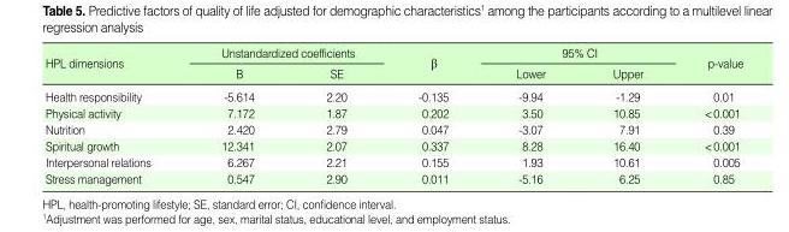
<table><thead><tr><td rowspan="2">HPL dimensions</td><td colspan="2">Unstandardized coefficients</td><td rowspan="2">β</td><td colspan="2">95% CI</td><td rowspan="2">p-value</td></tr><tr><td>B</td><td>SE</td><td>Lower</td><td>Upper</td></tr></thead><tbody><tr><td>Health responsibility</td><td>-5.614</td><td>2.20</td><td>-0.135</td><td>-9.94</td><td>-1.29</td><td>0.01</td></tr><tr><td>Physical activity</td><td>7.172</td><td>1.87</td><td>0.202</td><td>3.50</td><td>10.85</td><td>&lt;0.001</td></tr><tr><td>Nutrition</td><td>2.420</td><td>2.79</td><td>0.047</td><td>-3.07</td><td>7.91</td><td>0.39</td></tr><tr><td>Spiritual growth</td><td>12.341</td><td>2.07</td><td>0.337</td><td>8.28</td><td>16.40</td><td>&lt;0.001</td></tr><tr><td>Interpersonal relations</td><td>6.267</td><td>2.21</td><td>0.155</td><td>1.93</td><td>10.61</td><td>0.005</td></tr><tr><td>Stress management</td><td>0.547</td><td>2.90</td><td>0.011</td><td>-5.16</td><td>6.25</td><td>0.85</td></tr></tbody></table>